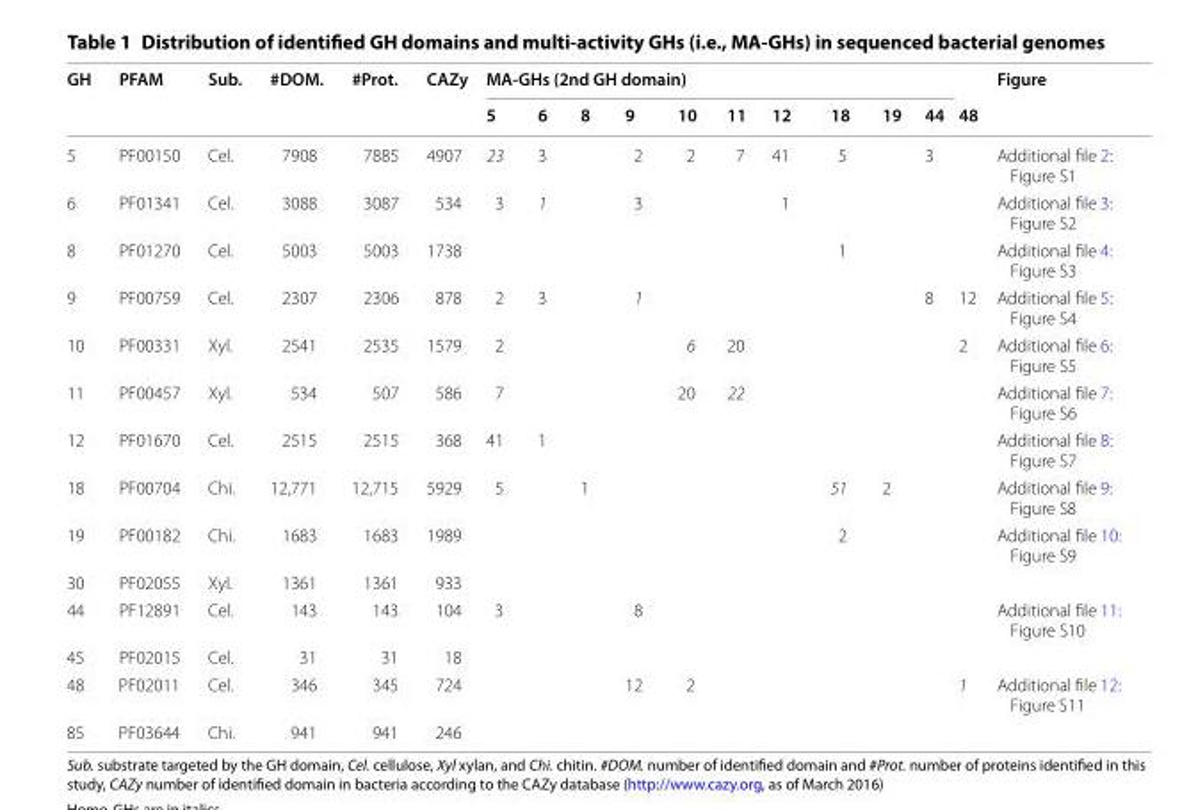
<table><thead><tr><td rowspan="2">GH</td><td rowspan="2">PFAM</td><td rowspan="2">Sub.</td><td rowspan="2">#DOM.</td><td rowspan="2">#Prot.</td><td rowspan="2">CAZy</td><td colspan="11">MA-GHs (2nd GH domain)</td><td rowspan="2">Figure</td></tr><tr><td>5</td><td>6</td><td>8</td><td>9</td><td>10</td><td>11</td><td>12</td><td>18</td><td>19</td><td>44</td><td>48</td></tr></thead><tbody><tr><td>5</td><td>PF00150</td><td>Cel.</td><td>7908</td><td>7885</td><td>4907</td><td>23</td><td>3</td><td></td><td>2</td><td>2</td><td>7</td><td>41</td><td>5</td><td></td><td>3</td><td></td><td>Additional file 2: Figure S1</td></tr><tr><td>6</td><td>PF01341</td><td>Cel.</td><td>3088</td><td>3087</td><td>534</td><td>3</td><td>1</td><td></td><td>3</td><td></td><td></td><td>1</td><td></td><td></td><td></td><td></td><td>Additional file 3: Figure S2</td></tr><tr><td>8</td><td>PF01270</td><td>Cel.</td><td>5003</td><td>5003</td><td>1738</td><td></td><td></td><td></td><td></td><td></td><td></td><td></td><td>1</td><td></td><td></td><td></td><td>Additional file 4: Figure S3</td></tr><tr><td>9</td><td>PF00759</td><td>Cel.</td><td>2307</td><td>2306</td><td>878</td><td>2</td><td>3</td><td></td><td>1</td><td></td><td></td><td></td><td></td><td></td><td>8</td><td>12</td><td>Additional file 5: Figure S4</td></tr><tr><td>10</td><td>PF00331</td><td>Xyl.</td><td>2541</td><td>2535</td><td>1579</td><td>2</td><td></td><td></td><td></td><td>6</td><td>20</td><td></td><td></td><td></td><td></td><td>2</td><td>Additional file 6: Figure S5</td></tr><tr><td>11</td><td>PF00457</td><td>Xyl.</td><td>534</td><td>507</td><td>586</td><td>7</td><td></td><td></td><td></td><td>20</td><td>22</td><td></td><td></td><td></td><td></td><td></td><td>Additional file 7: Figure S6</td></tr><tr><td>12</td><td>PF01670</td><td>Cel.</td><td>2515</td><td>2515</td><td>368</td><td>41</td><td>1</td><td></td><td></td><td></td><td></td><td></td><td></td><td></td><td></td><td></td><td>Additional file 8: Figure S7</td></tr><tr><td>18</td><td>PF00704</td><td>Chi.</td><td>12,771</td><td>12,715</td><td>5929</td><td>5</td><td></td><td>1</td><td></td><td></td><td></td><td></td><td>51</td><td>2</td><td></td><td></td><td>Additional file 9: Figure S8</td></tr><tr><td>19</td><td>PF00182</td><td>Chi.</td><td>1683</td><td>1683</td><td>1989</td><td></td><td></td><td></td><td></td><td></td><td></td><td></td><td>2</td><td></td><td></td><td></td><td>Additional file 10: Figure S9</td></tr><tr><td>30</td><td>PF02055</td><td>Xyl.</td><td>1361</td><td>1361</td><td>933</td><td></td><td></td><td></td><td></td><td></td><td></td><td></td><td></td><td></td><td></td><td></td><td></td></tr><tr><td>44</td><td>PF12891</td><td>Cel.</td><td>143</td><td>143</td><td>104</td><td>3</td><td></td><td></td><td>8</td><td></td><td></td><td></td><td></td><td></td><td></td><td></td><td>Additional file 11: Figure S10</td></tr><tr><td>45</td><td>PF02015</td><td>Cel.</td><td>31</td><td>31</td><td>18</td><td></td><td></td><td></td><td></td><td></td><td></td><td></td><td></td><td></td><td></td><td></td><td></td></tr><tr><td>48</td><td>PF02011</td><td>Cel.</td><td>346</td><td>345</td><td>724</td><td></td><td></td><td></td><td>12</td><td>2</td><td></td><td></td><td></td><td></td><td></td><td>1</td><td>Additional file 12: Figure S11</td></tr><tr><td>85</td><td>PF03644</td><td>Chi.</td><td>941</td><td>941</td><td>246</td><td></td><td></td><td></td><td></td><td></td><td></td><td></td><td></td><td></td><td></td><td></td><td></td></tr></tbody></table>